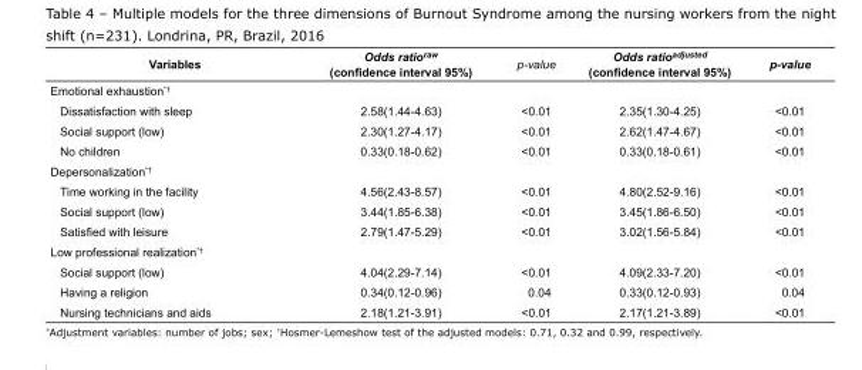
<table><tbody><tr><td>Variables</td><td>Odds ratioraw (confidence interval 95%)</td><td>p-value</td><td>Odds ratioadjusted (confidence interval 95%)</td><td>p-value</td></tr><tr><td colspan="5">Emotional exhaustion<sup>*†</sup></td></tr><tr><td>Dissatisfaction with sleep</td><td>2.58(1.44-4.63)</td><td>&lt;0.01</td><td>2.35(1.30-4.25)</td><td>&lt;0.01</td></tr><tr><td>Social support (low)</td><td>2.30(1.27-4.17)</td><td>&lt;0.01</td><td>2.62(1.47-4.67)</td><td>&lt;0.01</td></tr><tr><td>No children</td><td>0.33(0.18-0.62)</td><td>&lt;0.01</td><td>0.33(0.18-0.61)</td><td>&lt;0.01</td></tr><tr><td colspan="5">Depersonalization<sup>*†</sup></td></tr><tr><td>Time working in the facility</td><td>4.56(2.43-8.57)</td><td>&lt;0.01</td><td>4.80(2.52-9.16)</td><td>&lt;0.01</td></tr><tr><td>Social support (low)</td><td>3.44(1.85-6.38)</td><td>&lt;0.01</td><td>3.45(1.86-6.50)</td><td>&lt;0.01</td></tr><tr><td>Satisfied with leisure</td><td>2.79(1.47-5.29)</td><td>&lt;0.01</td><td>3.02(1.56-5.84)</td><td>&lt;0.01</td></tr><tr><td colspan="5">Low professional realization<sup>*†</sup></td></tr><tr><td>Social support (low)</td><td>4.04(2.29-7.14)</td><td>&lt;0.01</td><td>4.09(2.33-7.20)</td><td>&lt;0.01</td></tr><tr><td>Having a religion</td><td>0.34(0.12-0.96)</td><td>0.04</td><td>0.33(0.12-0.93)</td><td>0.04</td></tr><tr><td>Nursing technicians and aids</td><td>2.18(1.21-3.91)</td><td>&lt;0.01</td><td>2.17(1.21-3.89)</td><td>&lt;0.01</td></tr></tbody></table>